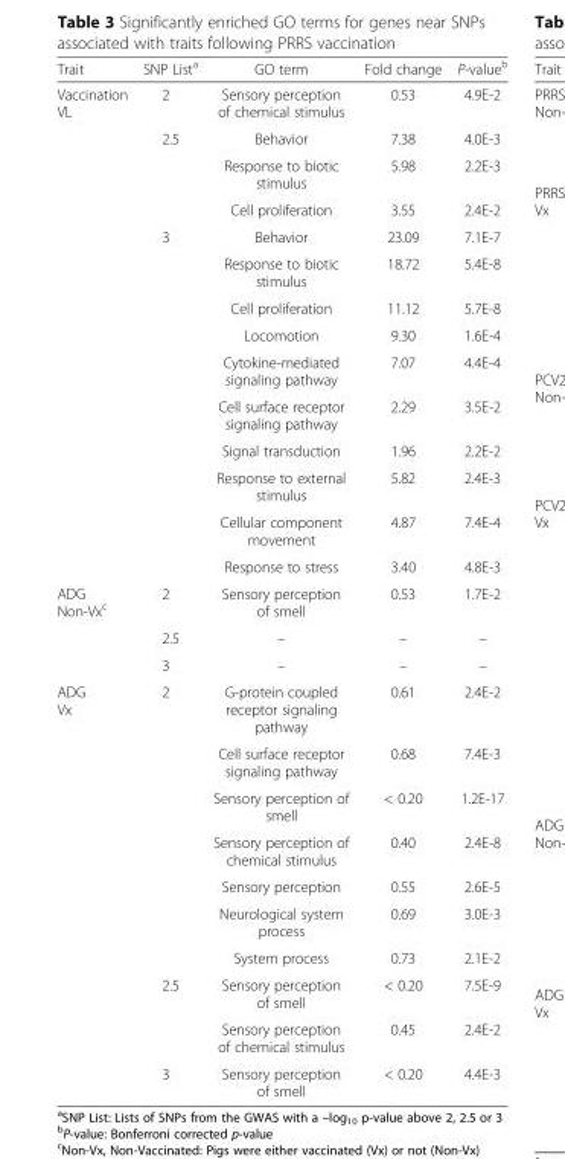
<table><thead><tr><td>Trait</td><td>SNP List<sup>a</sup></td><td>GO term</td><td>Fold change</td><td>P-value<sup>b</sup></td></tr></thead><tbody><tr><td rowspan="14">Vaccination VL</td><td>2</td><td>Sensory perception of chemical stimulus</td><td>0.53</td><td>4.9E-2</td></tr><tr><td rowspan="3">2.5</td><td>Behavior</td><td>7.38</td><td>4.0E-3</td></tr><tr><td>Response to biotic stimulus</td><td>5.98</td><td>2.2E-3</td></tr><tr><td>Cell proliferation</td><td>3.55</td><td>2.4E-2</td></tr><tr><td rowspan="10">3</td><td>Behavior</td><td>23.09</td><td>7.1E-7</td></tr><tr><td>Response to biotic stimulus</td><td>18.72</td><td>5.4E-8</td></tr><tr><td>Cell proliferation</td><td>11.12</td><td>5.7E-8</td></tr><tr><td>Locomotion</td><td>9.30</td><td>1.6E-4</td></tr><tr><td>Cytokine-mediated signaling pathway</td><td>7.07</td><td>4.4E-4</td></tr><tr><td>Cell surface receptor signaling pathway</td><td>2.29</td><td>3.5E-2</td></tr><tr><td>Signal transduction</td><td>1.96</td><td>2.2E-2</td></tr><tr><td>Response to external stimulus</td><td>5.82</td><td>2.4E-3</td></tr><tr><td>Cellular component movement</td><td>4.87</td><td>7.4E-4</td></tr><tr><td>Response to stress</td><td>3.40</td><td>4.8E-3</td></tr><tr><td rowspan="3">ADG Non-Vx<sup>c</sup></td><td>2</td><td>Sensory perception of smell</td><td>0.53</td><td>1.7E-2</td></tr><tr><td>2.5</td><td>–</td><td>–</td><td>–</td></tr><tr><td>3</td><td>–</td><td>–</td><td>–</td></tr><tr><td rowspan="10">ADG Vx</td><td rowspan="7">2</td><td>G-protein coupled receptor signaling pathway</td><td>0.61</td><td>2.4E-2</td></tr><tr><td>Cell surface receptor signaling pathway</td><td>0.68</td><td>7.4E-3</td></tr><tr><td>Sensory perception of smell</td><td>&lt; 0.20</td><td>1.2E-17</td></tr><tr><td>Sensory perception of chemical stimulus</td><td>0.40</td><td>2.4E-8</td></tr><tr><td>Sensory perception</td><td>0.55</td><td>2.6E-5</td></tr><tr><td>Neurological system process</td><td>0.69</td><td>3.0E-3</td></tr><tr><td>System process</td><td>0.73</td><td>2.1E-2</td></tr><tr><td rowspan="2">2.5</td><td>Sensory perception of smell</td><td>&lt; 0.20</td><td>7.5E-9</td></tr><tr><td>Sensory perception of chemical stimulus</td><td>0.45</td><td>2.4E-2</td></tr><tr><td>3</td><td>Sensory perception of smell</td><td>&lt; 0.20</td><td>4.4E-3</td></tr></tbody></table>